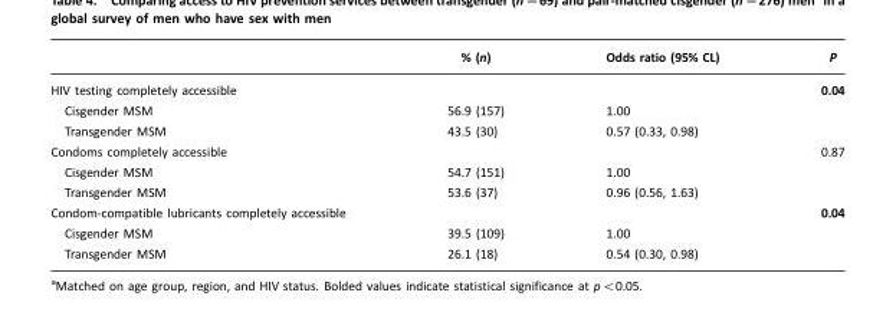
<table><thead><tr><td></td><td>% (n)</td><td>Odds ratio (95% CL)</td><td>P</td></tr></thead><tbody><tr><td>HIV testing completely accessible</td><td></td><td></td><td>0.04</td></tr><tr><td>Cisgender MSM</td><td>56.9 (157)</td><td>1.00</td><td></td></tr><tr><td>Transgender MSM</td><td>43.5 (30)</td><td>0.57 (0.33, 0.98)</td><td></td></tr><tr><td>Condoms completely accessible</td><td></td><td></td><td>0.87</td></tr><tr><td>Cisgender MSM</td><td>54.7 (151)</td><td>1.00</td><td></td></tr><tr><td>Transgender MSM</td><td>53.6 (37)</td><td>0.96 (0.56, 1.63)</td><td></td></tr><tr><td>Condom-compatible lubricants completely accessible</td><td></td><td></td><td>0.04</td></tr><tr><td>Cisgender MSM</td><td>39.5 (109)</td><td>1.00</td><td></td></tr><tr><td>Transgender MSM</td><td>26.1 (18)</td><td>0.54 (0.30, 0.98)</td><td></td></tr></tbody></table>